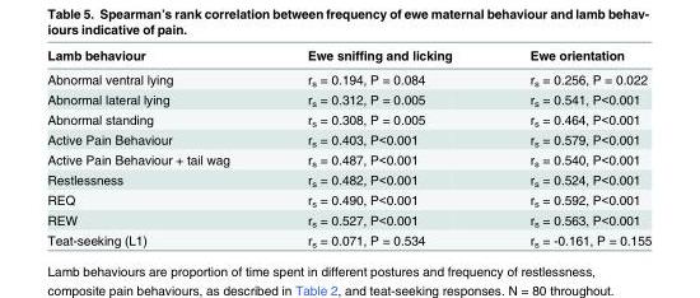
<table><thead><tr><td>Lamb behaviour</td><td>Ewe sniffing and licking</td><td>Ewe orientation</td></tr></thead><tbody><tr><td>Abnormal ventral lying</td><td>r<sub>s</sub> = 0.194, P = 0.084</td><td>r<sub>s</sub> = 0.256, P = 0.022</td></tr><tr><td>Abnormal lateral lying</td><td>r<sub>s</sub> = 0.312, P = 0.005</td><td>r<sub>s</sub> = 0.541, P&lt;0.001</td></tr><tr><td>Abnormal standing</td><td>r<sub>s</sub> = 0.308, P = 0.005</td><td>r<sub>s</sub> = 0.464, P&lt;0.001</td></tr><tr><td>Active Pain Behaviour</td><td>r<sub>s</sub> = 0.403, P&lt;0.001</td><td>r<sub>s</sub> = 0.579, P&lt;0.001</td></tr><tr><td>Active Pain Behaviour + tail wag</td><td>r<sub>s</sub> = 0.487, P&lt;0.001</td><td>r<sub>s</sub> = 0.540, P&lt;0.001</td></tr><tr><td>Restlessness</td><td>r<sub>s</sub> = 0.482, P&lt;0.001</td><td>r<sub>s</sub> = 0.524, P&lt;0.001</td></tr><tr><td>REQ</td><td>r<sub>s</sub> = 0.490, P&lt;0.001</td><td>r<sub>s</sub> = 0.592, P&lt;0.001</td></tr><tr><td>REW</td><td>r<sub>s</sub> = 0.527, P&lt;0.001</td><td>r<sub>s</sub> = 0.563, P&lt;0.001</td></tr><tr><td>Teat-seeking (L1)</td><td>r<sub>s</sub> = 0.071, P = 0.534</td><td>r<sub>s</sub> = -0.161, P = 0.155</td></tr></tbody></table>